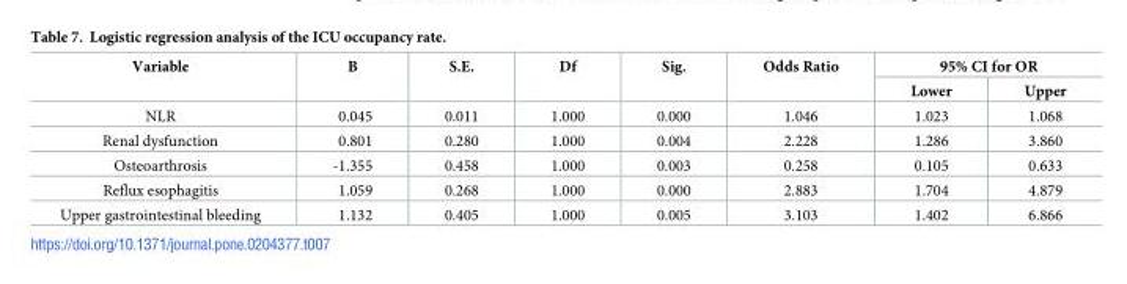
<table><thead><tr><td rowspan="2">Variable</td><td rowspan="2">B</td><td rowspan="2">S.E.</td><td rowspan="2">Df</td><td rowspan="2">Sig.</td><td rowspan="2">Odds Ratio</td><td colspan="2">95% CI for OR</td></tr><tr><td>Lower</td><td>Upper</td></tr></thead><tbody><tr><td>NLR</td><td>0.045</td><td>0.011</td><td>1.000</td><td>0.000</td><td>1.046</td><td>1.023</td><td>1.068</td></tr><tr><td>Renal dysfunction</td><td>0.801</td><td>0.280</td><td>1.000</td><td>0.004</td><td>2.228</td><td>1.286</td><td>3.860</td></tr><tr><td>Osteoarthrosis</td><td>-1.355</td><td>0.458</td><td>1.000</td><td>0.003</td><td>0.258</td><td>0.105</td><td>0.633</td></tr><tr><td>Reflux esophagitis</td><td>1.059</td><td>0.268</td><td>1.000</td><td>0.000</td><td>2.883</td><td>1.704</td><td>4.879</td></tr><tr><td>Upper gastrointestinal bleeding</td><td>1.132</td><td>0.405</td><td>1.000</td><td>0.005</td><td>3.103</td><td>1.402</td><td>6.866</td></tr></tbody></table>